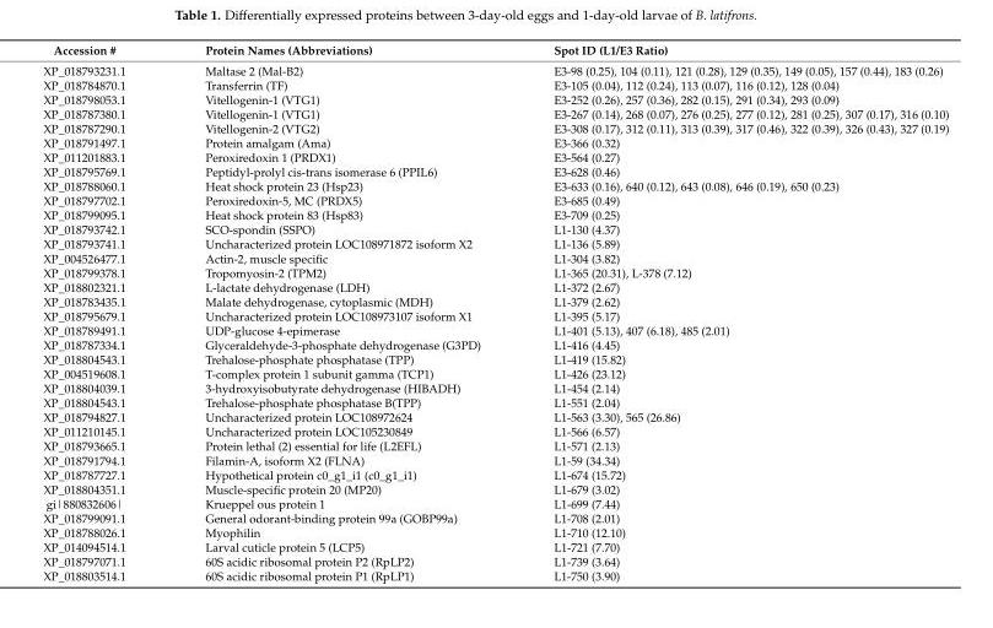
<table><thead><tr><td>Accession #</td><td>Protein Names (Abbreviations)</td><td>Spot ID (L1/E3 Ratio)</td></tr></thead><tbody><tr><td>XP_018793231.1</td><td>Maltase 2 (Mal-B2)</td><td>E3-98 (0.25), 104 (0.11), 121 (0.28), 129 (0.35), 149 (0.05), 157 (0.44), 183 (0.26)</td></tr><tr><td>XP_018784870.1</td><td>Transferrin (TF)</td><td>E3-105 (0.04), 112 (0.24), 113 (0.07), 116 (0.12), 128 (0.04)</td></tr><tr><td>XP_018798053.1</td><td>Vitellogenin-1 (VTG1)</td><td>E3-252 (0.26), 257 (0.36), 282 (0.15), 291 (0.34), 293 (0.09)</td></tr><tr><td>XP_018787380.1</td><td>Vitellogenin-1 (VTG1)</td><td>E3-267 (0.14), 268 (0.07), 276 (0.25), 277 (0.12), 281 (0.25), 307 (0.17), 316 (0.10)</td></tr><tr><td>XP_018787290.1</td><td>Vitellogenin-2 (VTG2)</td><td>E3-308 (0.17), 312 (0.11), 313 (0.39), 317 (0.46), 322 (0.39), 326 (0.43), 327 (0.19)</td></tr><tr><td>XP_018791497.1</td><td>Protein amalgam (Ama)</td><td>E3-366 (0.32)</td></tr><tr><td>XP_011201883.1</td><td>Peroxiredoxin 1 (PRDX1)</td><td>E3-564 (0.27)</td></tr><tr><td>XP_018795769.1</td><td>Peptidyl-prolyl cis-trans isomerase 6 (PPIL6)</td><td>E3-628 (0.46)</td></tr><tr><td>XP_018788060.1</td><td>Heat shock protein 23 (Hsp23)</td><td>E3-633 (0.16), 640 (0.12), 643 (0.08), 646 (0.19), 650 (0.23)</td></tr><tr><td>XP_018797702.1</td><td>Peroxiredoxin-5, MC (PRDX5)</td><td>E3-685 (0.49)</td></tr><tr><td>XP_018799095.1</td><td>Heat shock protein 83 (Hsp83)</td><td>E3-709 (0.25)</td></tr><tr><td>XP_018793742.1</td><td>SCO-spondin (SSPO)</td><td>L1-130 (4.37)</td></tr><tr><td>XP_018793741.1</td><td>Uncharacterized protein LOC108971872 isoform X2</td><td>L1-136 (5.89)</td></tr><tr><td>XP_004526477.1</td><td>Actin-2, muscle specific</td><td>L1-304 (3.82)</td></tr><tr><td>XP_018799378.1</td><td>Tropomyosin-2 (TPM2)</td><td>L1-365 (20.31), L-378 (7.12)</td></tr><tr><td>XP_018802321.1</td><td>L-lactate dehydrogenase (LDH)</td><td>L1-372 (2.67)</td></tr><tr><td>XP_018783435.1</td><td>Malate dehydrogenase, cytoplasmic (MDH)</td><td>L1-379 (2.62)</td></tr><tr><td>XP_018795679.1</td><td>Uncharacterized protein LOC108973107 isoform X1</td><td>L1-395 (5.17)</td></tr><tr><td>XP_018789491.1</td><td>UDP-glucose 4-epimerase</td><td>L1-401 (5.13), 407 (6.18), 485 (2.01)</td></tr><tr><td>XP_018787334.1</td><td>Glyceraldehyde-3-phosphate dehydrogenase (G3PD)</td><td>L1-416 (4.45)</td></tr><tr><td>XP_018804543.1</td><td>Trehalose-phosphate phosphatase (TPP)</td><td>L1-419 (15.82)</td></tr><tr><td>XP_004519608.1</td><td>T-complex protein 1 subunit gamma (TCP1)</td><td>L1-426 (23.12)</td></tr><tr><td>XP_018804039.1</td><td>3-hydroxyisobutyrate dehydrogenase (HIBADH)</td><td>L1-454 (2.14)</td></tr><tr><td>XP_018804543.1</td><td>Trehalose-phosphate phosphatase B(TPP)</td><td>L1-551 (2.04)</td></tr><tr><td>XP_018794827.1</td><td>Uncharacterized protein LOC108972624</td><td>L1-563 (3.30), 565 (26.86)</td></tr><tr><td>XP_011210145.1</td><td>Uncharacterized protein LOC105230849</td><td>L1-566 (6.57)</td></tr><tr><td>XP_018793665.1</td><td>Protein lethal (2) essential for life (L2EFL)</td><td>L1-571 (2.13)</td></tr><tr><td>XP_018791794.1</td><td>Filamin-A, isoform X2 (FLNA)</td><td>L1-59 (34.34)</td></tr><tr><td>XP_018787727.1</td><td>Hypothetical protein c0_g1_i1 (c0_g1_i1)</td><td>L1-674 (15.72)</td></tr><tr><td>XP_018804351.1</td><td>Muscle-specific protein 20 (MP20)</td><td>L1-679 (3.02)</td></tr><tr><td>gi|880832606|</td><td>Krueppel ous protein 1</td><td>L1-699 (7.44)</td></tr><tr><td>XP_018799091.1</td><td>General odorant-binding protein 99a (GOBP99a)</td><td>L1-708 (2.01)</td></tr><tr><td>XP_018788026.1</td><td>Myophilin</td><td>L1-710 (12.10)</td></tr><tr><td>XP_014094514.1</td><td>Larval cuticle protein 5 (LCP5)</td><td>L1-721 (7.70)</td></tr><tr><td>XP_018797071.1</td><td>60S acidic ribosomal protein P2 (RpLP2)</td><td>L1-739 (3.64)</td></tr><tr><td>XP_018803514.1</td><td>60S acidic ribosomal protein P1 (RpLP1)</td><td>L1-750 (3.90)</td></tr></tbody></table>